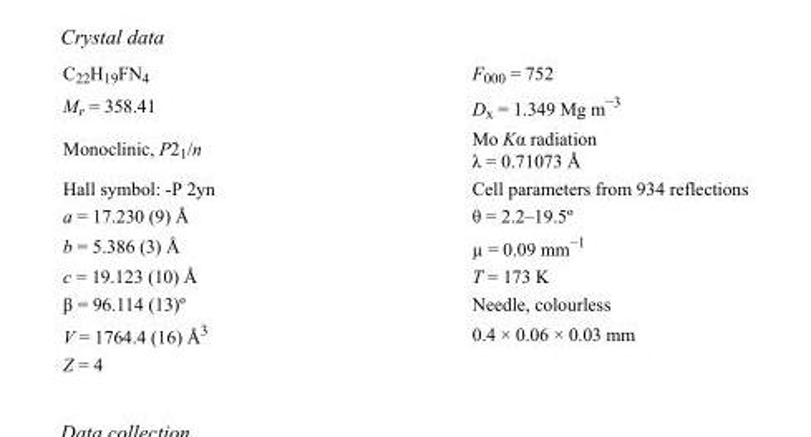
<table><tbody><tr><td>C<sub>22</sub>H<sub>19</sub>FN<sub>4</sub></td><td>F000 = 752</td></tr><tr><td>M<sub>r</sub> = 358.41</td><td>D<sub>x</sub> = 1.349 Mg m<sup>−3</sup></td></tr><tr><td>Monoclinic, P2<sub>1</sub>/n</td><td>Mo Kα radiation λ = 0.71073 Å</td></tr><tr><td>Hall symbol: -P 2yn</td><td>Cell parameters from 934 reflections</td></tr><tr><td>a = 17.230 (9) Å</td><td>θ = 2.2–19.5º</td></tr><tr><td>b = 5.386 (3) Å</td><td>µ = 0.09 mm<sup>−1</sup></td></tr><tr><td>c = 19.123 (10) Å</td><td>T = 173 K</td></tr><tr><td>β = 96.114 (13)º</td><td>Needle, colourless</td></tr><tr><td>V = 1764.4 (16) Å<sup>3</sup></td><td>0.4 × 0.06 × 0.03 mm</td></tr><tr><td>Z = 4</td><td></td></tr></tbody></table>